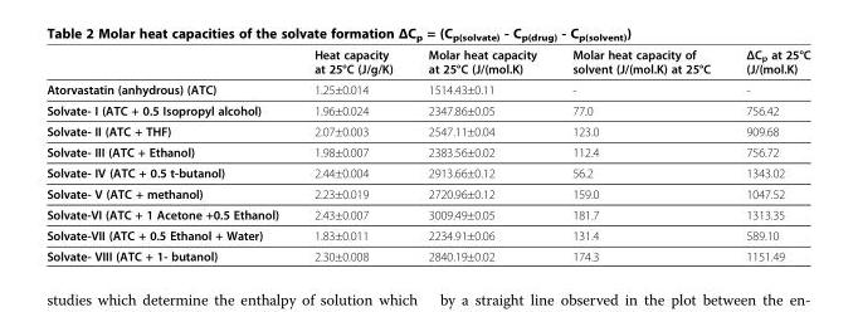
<table><thead><tr><td></td><td>Heat capacity at 25°C (J/g/K)</td><td>Molar heat capacity at 25°C (J/(mol.K)</td><td>Molar heat capacity of solvent (J/(mol.K) at 25°C</td><td>ΔC<sub>p</sub> at 25°C (J/(mol.K)</td></tr></thead><tbody><tr><td>Atorvastatin (anhydrous) (ATC)</td><td>1.25±0.014</td><td>1514.43±0.11</td><td>-</td><td>-</td></tr><tr><td>Solvate- I (ATC + 0.5 Isopropyl alcohol)</td><td>1.96±0.024</td><td>2347.86±0.05</td><td>77.0</td><td>756.42</td></tr><tr><td>Solvate- II (ATC + THF)</td><td>2.07±0.003</td><td>2547.11±0.04</td><td>123.0</td><td>909.68</td></tr><tr><td>Solvate- III (ATC + Ethanol)</td><td>1.98±0.007</td><td>2383.56±0.02</td><td>112.4</td><td>756.72</td></tr><tr><td>Solvate- IV (ATC + 0.5 t-butanol)</td><td>2.44±0.004</td><td>2913.66±0.12</td><td>56.2</td><td>1343.02</td></tr><tr><td>Solvate- V (ATC + methanol)</td><td>2.23±0.019</td><td>2720.96±0.12</td><td>159.0</td><td>1047.52</td></tr><tr><td>Solvate-VI (ATC + 1 Acetone +0.5 Ethanol)</td><td>2.43±0.007</td><td>3009.49±0.05</td><td>181.7</td><td>1313.35</td></tr><tr><td>Solvate-VII (ATC + 0.5 Ethanol + Water)</td><td>1.83±0.011</td><td>2234.91±0.06</td><td>131.4</td><td>589.10</td></tr><tr><td>Solvate- VIII (ATC + 1- butanol)</td><td>2.30±0.008</td><td>2840.19±0.02</td><td>174.3</td><td>1151.49</td></tr></tbody></table>